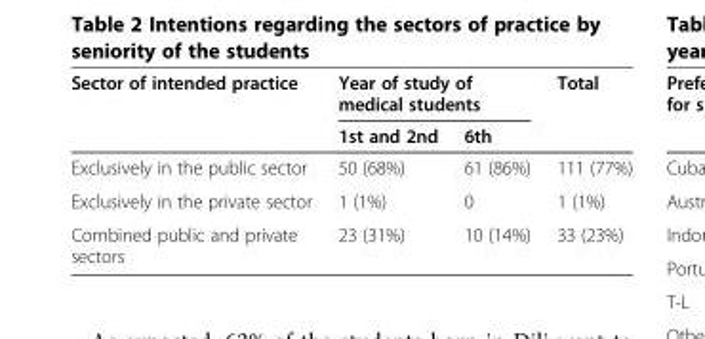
<table><thead><tr><td rowspan="2">Sector of intended practice</td><td colspan="2">Year of study of medical students</td><td rowspan="2">Total</td></tr><tr><td>1st and 2nd</td><td>6th</td></tr></thead><tbody><tr><td>Exclusively in the public sector</td><td>50 (68%)</td><td>61 (86%)</td><td>111 (77%)</td></tr><tr><td>Exclusively in the private sector</td><td>1 (1%)</td><td>0</td><td>1 (1%)</td></tr><tr><td>Combined public and private sectors</td><td>23 (31%)</td><td>10 (14%)</td><td>33 (23%)</td></tr></tbody></table>